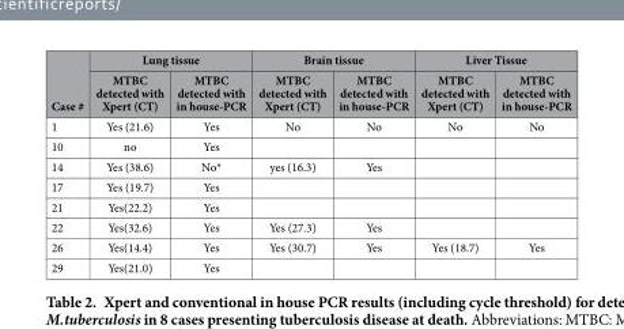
<table><thead><tr><td rowspan="2">Case #</td><td colspan="2">Lung tissue</td><td colspan="2">Brain tissue</td><td colspan="2">Liver Tissue</td></tr><tr><td>MTBC detected with Xpert (CT)</td><td>MTBC detected with in house-PCR</td><td>MTBC detected with Xpert (CT)</td><td>MTBC detected with in house-PCR</td><td>MTBC detected with Xpert (CT)</td><td>MTBC detected with in house-PCR</td></tr></thead><tbody><tr><td>1</td><td>Yes (21.6)</td><td>Yes</td><td>No</td><td>No</td><td>No</td><td>No</td></tr><tr><td>10</td><td>no</td><td>Yes</td><td></td><td></td><td></td><td></td></tr><tr><td>14</td><td>Yes (38.6)</td><td>No*</td><td>yes (16.3)</td><td>Yes</td><td></td><td></td></tr><tr><td>17</td><td>Yes (19.7)</td><td>Yes</td><td></td><td></td><td></td><td></td></tr><tr><td>21</td><td>Yes(22.2)</td><td>Yes</td><td></td><td></td><td></td><td></td></tr><tr><td>22</td><td>Yes(32.6)</td><td>Yes</td><td>Yes (27.3)</td><td>Yes</td><td></td><td></td></tr><tr><td>26</td><td>Yes(14.4)</td><td>Yes</td><td>Yes (30.7)</td><td>Yes</td><td>Yes (18.7)</td><td>Yes</td></tr><tr><td>29</td><td>Yes(21.0)</td><td>Yes</td><td></td><td></td><td></td><td></td></tr></tbody></table>